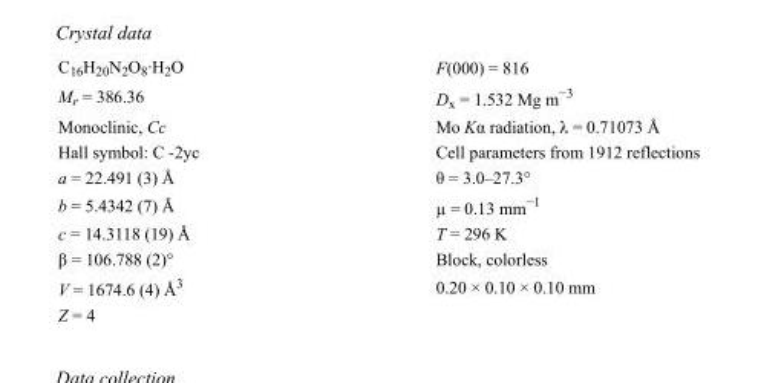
<table><tbody><tr><td>C<sub>16</sub>H<sub>20</sub>N<sub>2</sub>O<sub>8</sub>·H<sub>2</sub>O</td><td>F(000) = 816</td></tr><tr><td>M<sub>r</sub> = 386.36</td><td>D<sub>x</sub> = 1.532 Mg m<sup>−3</sup></td></tr><tr><td>Monoclinic, Cc</td><td>Mo Kα radiation, λ = 0.71073 Å</td></tr><tr><td>Hall symbol: C -2yc</td><td>Cell parameters from 1912 reflections</td></tr><tr><td>a = 22.491 (3) Å</td><td>θ = 3.0–27.3°</td></tr><tr><td>b = 5.4342 (7) Å</td><td>µ = 0.13 mm<sup>−1</sup></td></tr><tr><td>c = 14.3118 (19) Å</td><td>T = 296 K</td></tr><tr><td>β = 106.788 (2)°</td><td>Block, colorless</td></tr><tr><td>V = 1674.6 (4) Å<sup>3</sup></td><td>0.20 × 0.10 × 0.10 mm</td></tr><tr><td>Z = 4</td><td></td></tr></tbody></table>